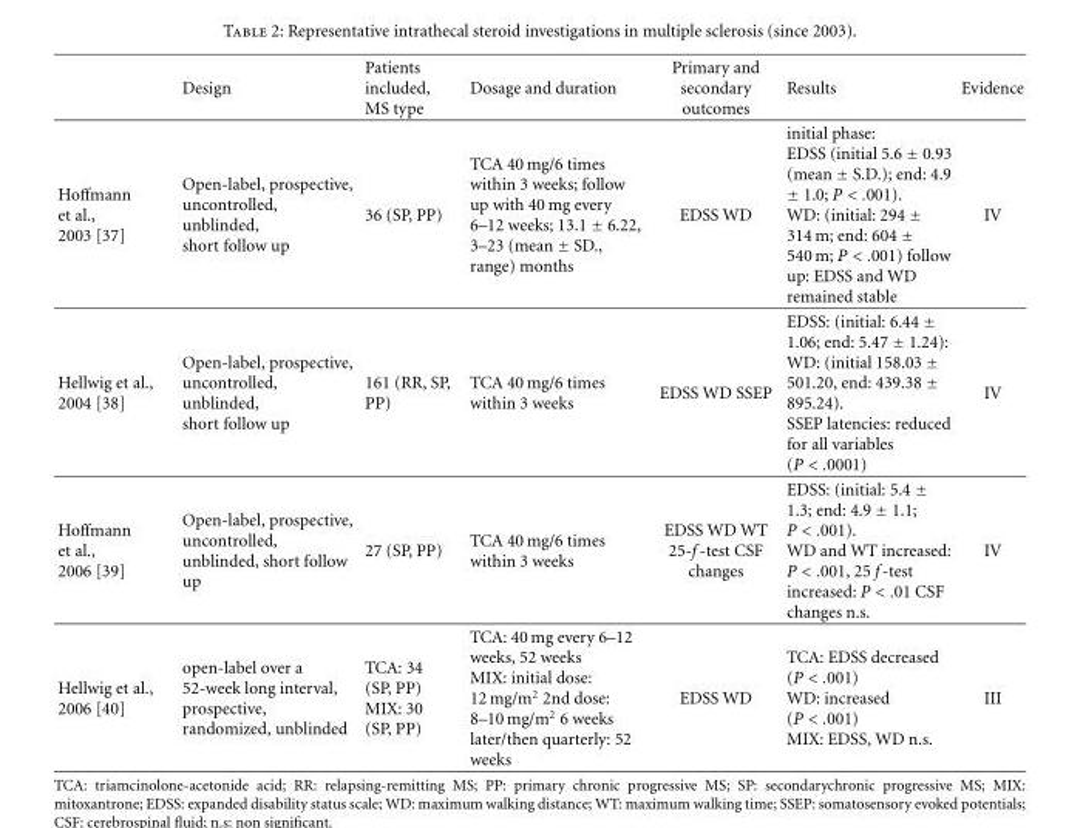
<table><thead><tr><td></td><td>Design</td><td>Patients included, MS type</td><td>Dosage and duration</td><td>Primary and secondary outcomes</td><td>Results</td><td>Evidence</td></tr></thead><tbody><tr><td>Hoffmann et al., 2003 [37]</td><td>Open-label, prospective, uncontrolled, unblinded, short follow up</td><td>36 (SP, PP)</td><td>TCA 40 mg/6 times within 3 weeks; follow up with 40 mg every 6–12 weeks; 13.1 ± 6.22, 3–23 (mean ± SD., range) months</td><td>EDSS WD</td><td>initial phase: EDSS (initial 5.6 ± 0.93 (mean ± S.D.); end: 4.9 ± 1.0; P &lt; .001). WD: (initial: 294 ± 314 m; end: 604 ± 540 m; P &lt; .001) follow up: EDSS and WD remained stable</td><td>IV</td></tr><tr><td>Hellwig et al., 2004 [38]</td><td>Open-label, prospective, uncontrolled, unblinded, short follow up</td><td>161 (RR, SP, PP)</td><td>TCA 40 mg/6 times within 3 weeks</td><td>EDSS WD SSEP</td><td>EDSS: (initial: 6.44 ± 1.06; end: 5.47 ± 1.24): WD: (initial 158.03 ± 501.20, end: 439.38 ± 895.24). SSEP latencies: reduced for all variables (P &lt; .0001)</td><td>IV</td></tr><tr><td>Hoffmann et al., 2006 [39]</td><td>Open-label, prospective, uncontrolled, unblinded, short follow up</td><td>27 (SP, PP)</td><td>TCA 40 mg/6 times within 3 weeks</td><td>EDSS WD WT 25-f -test CSF changes</td><td>EDSS: (initial: 5.4 ± 1.3; end: 4.9 ± 1.1; P &lt; .001). WD and WT increased: P &lt; .001, 25 f -test increased: P &lt; .01 CSF changes n.s.</td><td>IV</td></tr><tr><td>Hellwig et al., 2006 [40]</td><td>open-label over a 52-week long interval, prospective, randomized, unblinded</td><td>TCA: 34 (SP, PP) MIX: 30 (SP, PP)</td><td>TCA: 40 mg every 6–12 weeks, 52 weeks MIX: initial dose: 12 mg/m<sup>2</sup> 2nd dose: 8–10 mg/m<sup>2</sup> 6 weeks later/then quarterly: 52 weeks</td><td>EDSS WD</td><td>TCA: EDSS decreased (P &lt; .001) WD: increased (P &lt; .001) MIX: EDSS, WD n.s.</td><td>III</td></tr></tbody></table>